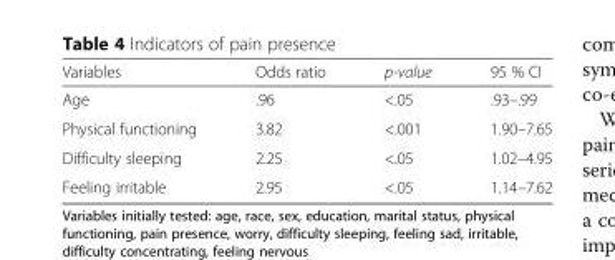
<table><thead><tr><td>Variables</td><td>Odds ratio</td><td>p-value</td><td>95 % CI</td></tr></thead><tbody><tr><td>Age</td><td>.96</td><td>&lt;.05</td><td>.93–.99</td></tr><tr><td>Physical functioning</td><td>3.82</td><td>&lt;.001</td><td>1.90–7.65</td></tr><tr><td>Difficulty sleeping</td><td>2.25</td><td>&lt;.05</td><td>1.02–4.95</td></tr><tr><td>Feeling irritable</td><td>2.95</td><td>&lt;.05</td><td>1.14–7.62</td></tr></tbody></table>